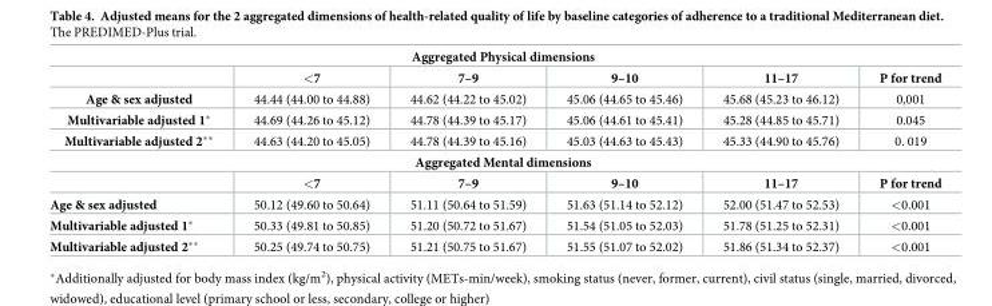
<table><tbody><tr><td colspan="6">Aggregated Physical dimensions</td></tr><tr><td></td><td>&lt;7</td><td>7–9</td><td>9–10</td><td>11–17</td><td>P for trend</td></tr><tr><td>Age &amp; sex adjusted</td><td>44.44 (44.00 to 44.88)</td><td>44.62 (44.22 to 45.02)</td><td>45.06 (44.65 to 45.46)</td><td>45.68 (45.23 to 46.12)</td><td>0,001</td></tr><tr><td>Multivariable adjusted 1*</td><td>44.69 (44.26 to 45.12)</td><td>44.78 (44.39 to 45.17)</td><td>45.06 (44.61 to 45.41)</td><td>45.28 (44.85 to 45.71)</td><td>0.045</td></tr><tr><td>Multivariable adjusted 2**</td><td>44.63 (44.20 to 45.05)</td><td>44.78 (44.39 to 45.16)</td><td>45.03 (44.63 to 45.43)</td><td>45.33 (44.90 to 45.76)</td><td>0. 019</td></tr><tr><td colspan="6">Aggregated Mental dimensions</td></tr><tr><td></td><td>&lt;7</td><td>7–9</td><td>9–10</td><td>11–17</td><td>P for trend</td></tr><tr><td>Age &amp; sex adjusted</td><td>50.12 (49.60 to 50.64)</td><td>51.11 (50.64 to 51.59)</td><td>51.63 (51.14 to 52.12)</td><td>52.00 (51.47 to 52.53)</td><td>&lt;0.001</td></tr><tr><td>Multivariable adjusted 1*</td><td>50.33 (49.81 to 50.85)</td><td>51.20 (50.72 to 51.67)</td><td>51.54 (51.05 to 52.03)</td><td>51.78 (51.25 to 52.31)</td><td>&lt;0.001</td></tr><tr><td>Multivariable adjusted 2**</td><td>50.25 (49.74 to 50.75)</td><td>51.21 (50.75 to 51.67)</td><td>51.55 (51.07 to 52.02)</td><td>51.86 (51.34 to 52.37)</td><td>&lt;0.001</td></tr></tbody></table>